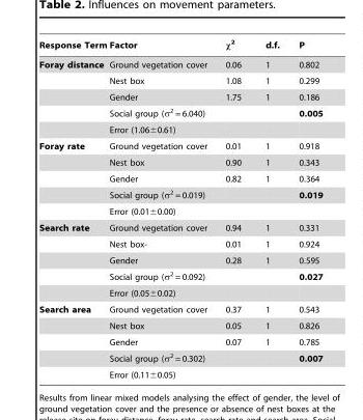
<table><thead><tr><td>Response Term</td><td>Factor</td><td>x2</td><td>d.f.</td><td>P</td></tr></thead><tbody><tr><td rowspan="5">Foray distance</td><td>Ground vegetation cover</td><td>0.06</td><td>1</td><td>0.802</td></tr><tr><td>Nest box</td><td>1.08</td><td>1</td><td>0.299</td></tr><tr><td>Gender</td><td>1.75</td><td>1</td><td>0.186</td></tr><tr><td>Social group (σ<sup>2</sup> = 6.040)</td><td></td><td></td><td>0.005</td></tr><tr><td>Error (1.06±0.61)</td><td></td><td></td><td></td></tr><tr><td rowspan="5">Foray rate</td><td>Ground vegetation cover</td><td>0.01</td><td>1</td><td>0.918</td></tr><tr><td>Nest box</td><td>0.90</td><td>1</td><td>0.343</td></tr><tr><td>Gender</td><td>0.82</td><td>1</td><td>0.364</td></tr><tr><td>Social group (σ<sup>2</sup> = 0.019)</td><td></td><td></td><td>0.019</td></tr><tr><td>Error (0.01±0.00)</td><td></td><td></td><td></td></tr><tr><td rowspan="5">Search rate</td><td>Ground vegetation cover</td><td>0.94</td><td>1</td><td>0.331</td></tr><tr><td>Nest box-</td><td>0.01</td><td>1</td><td>0.924</td></tr><tr><td>Gender</td><td>0.28</td><td>1</td><td>0.595</td></tr><tr><td>Social group (σ<sup>2</sup> = 0.092)</td><td></td><td></td><td>0.027</td></tr><tr><td>Error (0.05±0.02)</td><td></td><td></td><td></td></tr><tr><td rowspan="5">Search area</td><td>Ground vegetation cover</td><td>0.37</td><td>1</td><td>0.543</td></tr><tr><td>Nest box</td><td>0.05</td><td>1</td><td>0.826</td></tr><tr><td>Gender</td><td>0.07</td><td>1</td><td>0.785</td></tr><tr><td>Social group (σ<sup>2</sup> = 0.302)</td><td></td><td></td><td>0.007</td></tr><tr><td>Error (0.11±0.05)</td><td></td><td></td><td></td></tr></tbody></table>